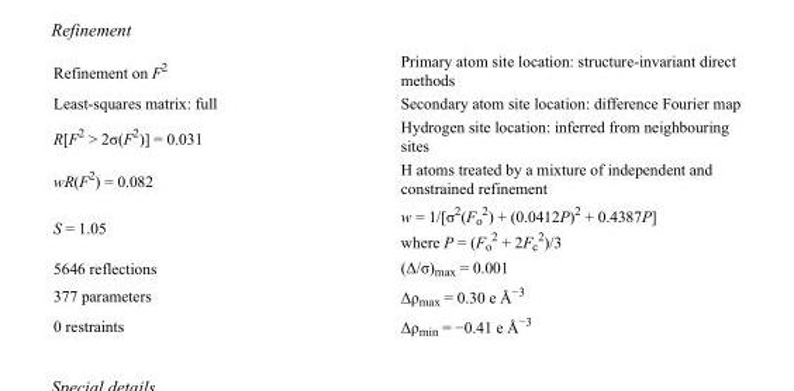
<table><tbody><tr><td>Refinement on F<sup>2</sup></td><td>Primary atom site location: structure-invariant direct methods</td></tr><tr><td>Least-squares matrix: full</td><td>Secondary atom site location: difference Fourier map</td></tr><tr><td>R[F<sup>2</sup> &gt; 2σ(F<sup>2</sup>)] = 0.031</td><td>Hydrogen site location: inferred from neighbouring sites</td></tr><tr><td>wR(F<sup>2</sup>) = 0.082</td><td>H atoms treated by a mixture of independent and constrained refinement</td></tr><tr><td>S = 1.05</td><td>w = 1/[σ<sup>2</sup>(F<sub>o</sub> <sup>2</sup>) + (0.0412P)<sup>2</sup> + 0.4387P] where P = (F<sub>o</sub> <sup>2</sup> + 2F<sub>c</sub> <sup>2</sup>)/3</td></tr><tr><td>5646 reflections</td><td>(Δ/σ)<sub>max</sub> = 0.001</td></tr><tr><td>377 parameters</td><td>Δρ<sub>max</sub> = 0.30 e Å<sup>−3</sup></td></tr><tr><td>0 restraints</td><td>Δρ<sub>min</sub> = −0.41 e Å<sup>−3</sup></td></tr></tbody></table>